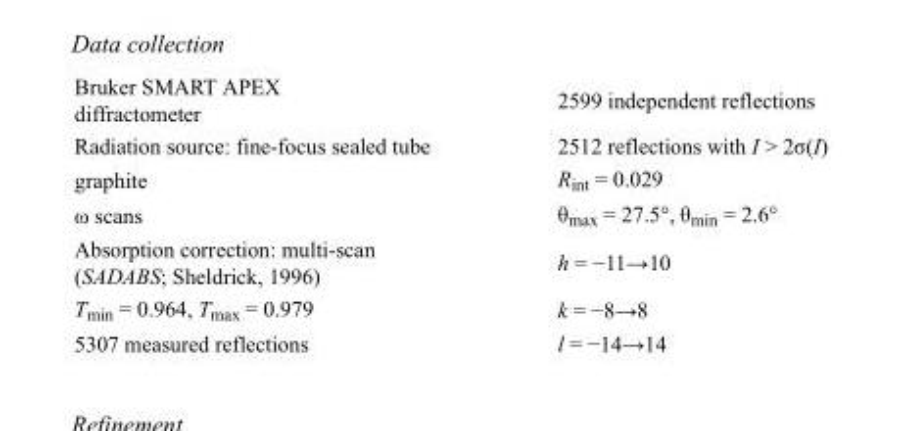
<table><tbody><tr><td>Bruker SMART APEX diffractometer</td><td>2599 independent reflections</td></tr><tr><td>Radiation source: fine-focus sealed tube</td><td>2512 reflections with I &gt; 2σ(I)</td></tr><tr><td>graphite</td><td>R<sub>int</sub> = 0.029</td></tr><tr><td>ω scans</td><td>θ<sub>max</sub> = 27.5°, θ<sub>min</sub> = 2.6°</td></tr><tr><td>Absorption correction: multi-scan (SADABS; Sheldrick, 1996)</td><td>h = −11→10</td></tr><tr><td>T<sub>min</sub> = 0.964, T<sub>max</sub> = 0.979</td><td>k = −8→8</td></tr><tr><td>5307 measured reflections</td><td>l = −14→14</td></tr></tbody></table>